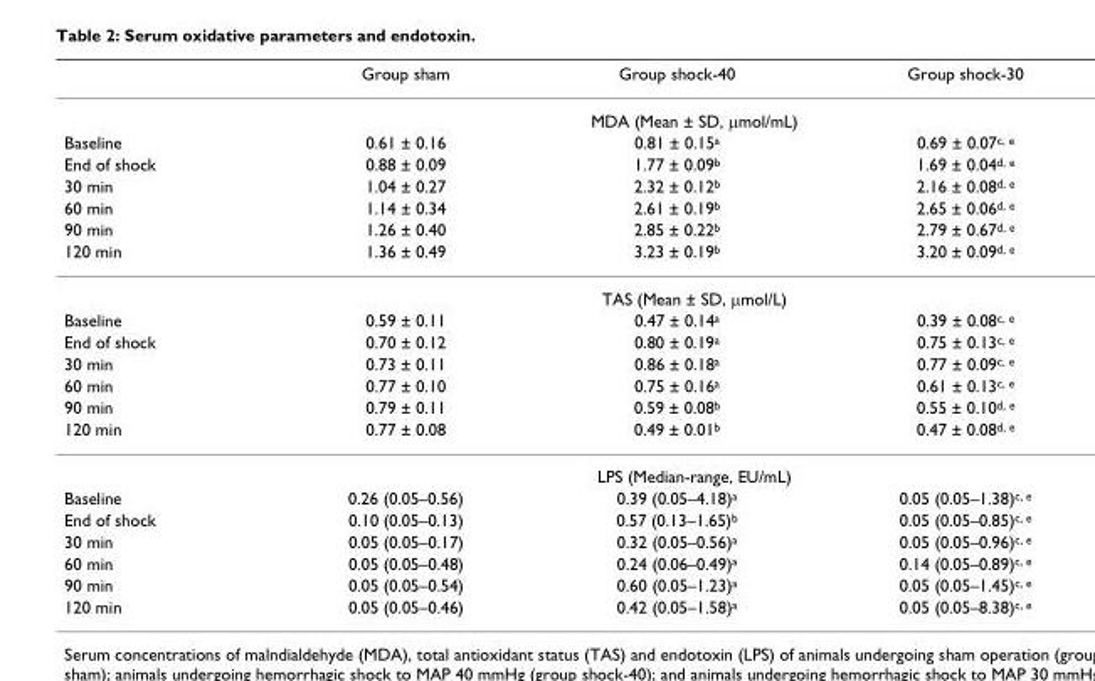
<table><thead><tr><td></td><td>Group sham</td><td>Group shock-40</td><td>Group shock-30</td></tr></thead><tbody><tr><td></td><td colspan="3">MDA (Mean ± SD, μmol/mL)</td></tr><tr><td>Baseline</td><td>0.61 ± 0.16</td><td>0.81 ± 0.15<sup>a</sup></td><td>0.69 ± 0.07<sup>c, e</sup></td></tr><tr><td>End of shock</td><td>0.88 ± 0.09</td><td>1.77 ± 0.09<sup>b</sup></td><td>1.69 ± 0.04<sup>d, e</sup></td></tr><tr><td>30 min</td><td>1.04 ± 0.27</td><td>2.32 ± 0.12<sup>b</sup></td><td>2.16 ± 0.08<sup>d, e</sup></td></tr><tr><td>60 min</td><td>1.14 ± 0.34</td><td>2.61 ± 0.19<sup>b</sup></td><td>2.65 ± 0.06<sup>d, e</sup></td></tr><tr><td>90 min</td><td>1.26 ± 0.40</td><td>2.85 ± 0.22<sup>b</sup></td><td>2.79 ± 0.67<sup>d, e</sup></td></tr><tr><td rowspan="2">120 min</td><td>1.36 ± 0.49</td><td>3.23 ± 0.19<sup>b</sup></td><td>3.20 ± 0.09<sup>d, e</sup></td></tr><tr><td colspan="3">TAS (Mean ± SD, μmol/L)</td></tr><tr><td>Baseline</td><td>0.59 ± 0.11</td><td>0.47 ± 0.14<sup>a</sup></td><td>0.39 ± 0.08<sup>c, e</sup></td></tr><tr><td>End of shock</td><td>0.70 ± 0.12</td><td>0.80 ± 0.19<sup>a</sup></td><td>0.75 ± 0.13<sup>c, e</sup></td></tr><tr><td>30 min</td><td>0.73 ± 0.11</td><td>0.86 ± 0.18<sup>a</sup></td><td>0.77 ± 0.09<sup>c, e</sup></td></tr><tr><td>60 min</td><td>0.77 ± 0.10</td><td>0.75 ± 0.16<sup>a</sup></td><td>0.61 ± 0.13<sup>c, e</sup></td></tr><tr><td>90 min</td><td>0.79 ± 0.11</td><td>0.59 ± 0.08<sup>b</sup></td><td>0.55 ± 0.10<sup>d, e</sup></td></tr><tr><td rowspan="2">120 min</td><td>0.77 ± 0.08</td><td>0.49 ± 0.01<sup>b</sup></td><td>0.47 ± 0.08<sup>d, e</sup></td></tr><tr><td colspan="3">LPS (Median-range, EU/mL)</td></tr><tr><td>Baseline</td><td>0.26 (0.05–0.56)</td><td>0.39 (0.05–4.18)<sup>a</sup></td><td>0.05 (0.05–1.38)<sup>c, e</sup></td></tr><tr><td>End of shock</td><td>0.10 (0.05–0.13)</td><td>0.57 (0.13–1.65)<sup>b</sup></td><td>0.05 (0.05–0.85)<sup>c, e</sup></td></tr><tr><td>30 min</td><td>0.05 (0.05–0.17)</td><td>0.32 (0.05–0.56)<sup>a</sup></td><td>0.05 (0.05–0.96)<sup>c, e</sup></td></tr><tr><td>60 min</td><td>0.05 (0.05–0.48)</td><td>0.24 (0.06–0.49)<sup>a</sup></td><td>0.14 (0.05–0.89)<sup>c, e</sup></td></tr><tr><td>90 min</td><td>0.05 (0.05–0.54)</td><td>0.60 (0.05–1.23)<sup>a</sup></td><td>0.05 (0.05–1.45)<sup>c, e</sup></td></tr><tr><td>120 min</td><td>0.05 (0.05–0.46)</td><td>0.42 (0.05–1.58)<sup>a</sup></td><td>0.05 (0.05–8.38)<sup>c, e</sup></td></tr></tbody></table>